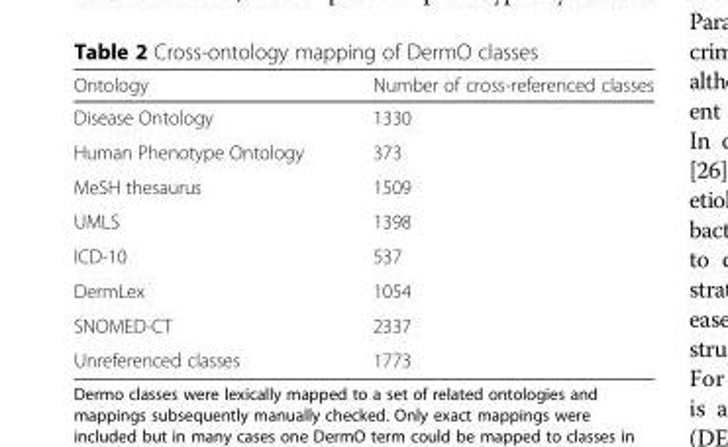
<table><thead><tr><td>Ontology</td><td>Number of cross-referenced classes</td></tr></thead><tbody><tr><td>Disease Ontology</td><td>1330</td></tr><tr><td>Human Phenotype Ontology</td><td>373</td></tr><tr><td>MeSH thesaurus</td><td>1509</td></tr><tr><td>UMLS</td><td>1398</td></tr><tr><td>ICD-10</td><td>537</td></tr><tr><td>DermLex</td><td>1054</td></tr><tr><td>SNOMED-CT</td><td>2337</td></tr><tr><td>Unreferenced classes</td><td>1773</td></tr></tbody></table>